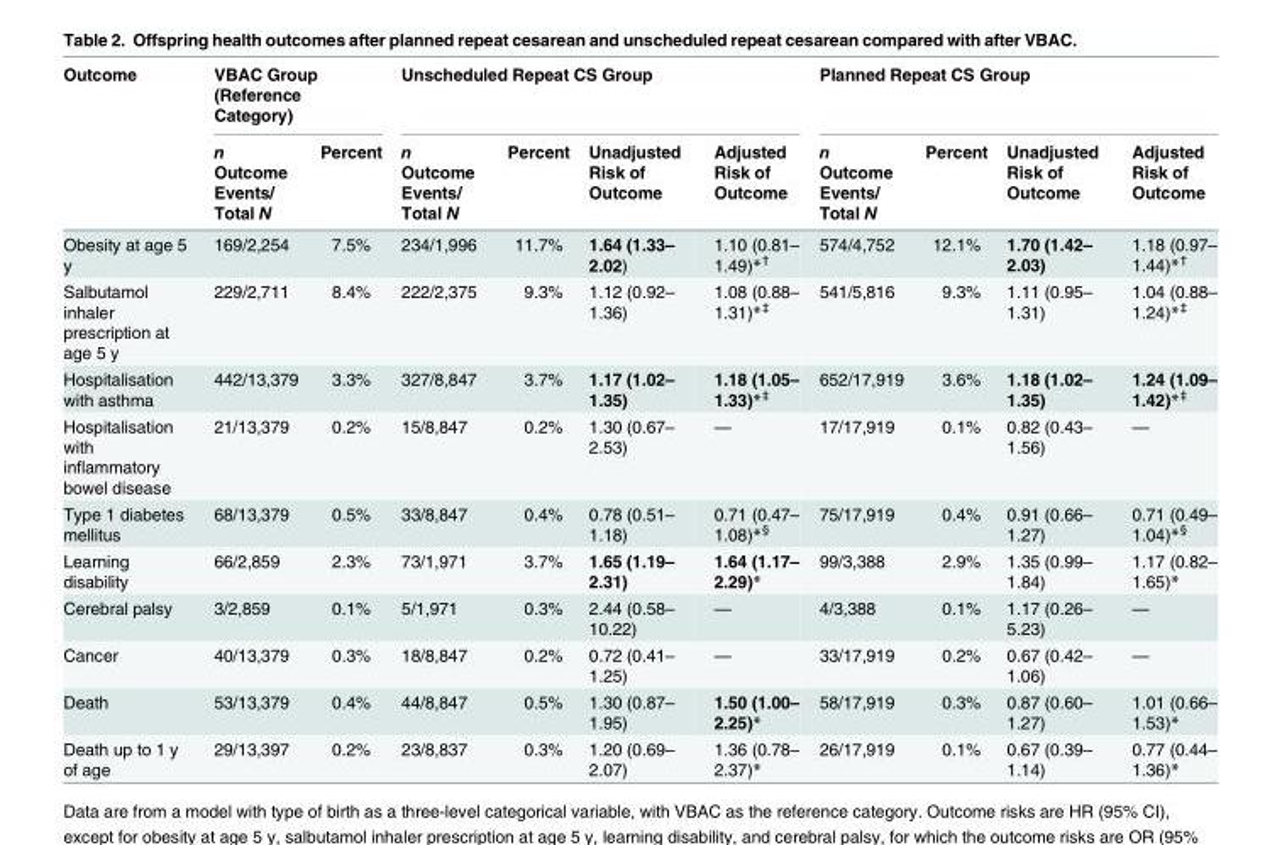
<table><thead><tr><td rowspan="2">Outcome</td><td colspan="2">VBAC Group (Reference Category)</td><td colspan="4">Unscheduled Repeat CS Group</td><td colspan="4">Planned Repeat CS Group</td></tr><tr><td>n Outcome Events/ Total N</td><td>Percent</td><td>n Outcome Events/ Total N</td><td>Percent</td><td>Unadjusted Risk of Outcome</td><td>Adjusted Risk of Outcome</td><td>n Outcome Events/ Total N</td><td>Percent</td><td>Unadjusted Risk of Outcome</td><td>Adjusted Risk of Outcome</td></tr></thead><tbody><tr><td>Obesity at age 5 y</td><td>169/2,254</td><td>7.5%</td><td>234/1,996</td><td>11.7%</td><td>1.64 (1.33– 2.02)</td><td>1.10 (0.81– 1.49)*<sup>†</sup></td><td>574/4,752</td><td>12.1%</td><td>1.70 (1.42– 2.03)</td><td>1.18 (0.97– 1.44)*<sup>†</sup></td></tr><tr><td>Salbutamol inhaler prescription at age 5 y</td><td>229/2,711</td><td>8.4%</td><td>222/2,375</td><td>9.3%</td><td>1.12 (0.92– 1.36)</td><td>1.08 (0.88– 1.31)*<sup>‡</sup></td><td>541/5,816</td><td>9.3%</td><td>1.11 (0.95– 1.31)</td><td>1.04 (0.88– 1.24)*<sup>‡</sup></td></tr><tr><td>Hospitalisation with asthma</td><td>442/13,379</td><td>3.3%</td><td>327/8,847</td><td>3.7%</td><td>1.17 (1.02– 1.35)</td><td>1.18 (1.05– 1.33)*<sup>‡</sup></td><td>652/17,919</td><td>3.6%</td><td>1.18 (1.02– 1.35)</td><td>1.24 (1.09– 1.42)*<sup>‡</sup></td></tr><tr><td>Hospitalisation with inflammatory bowel disease</td><td>21/13,379</td><td>0.2%</td><td>15/8,847</td><td>0.2%</td><td>1.30 (0.67– 2.53)</td><td>—</td><td>17/17,919</td><td>0.1%</td><td>0.82 (0.43– 1.56)</td><td>—</td></tr><tr><td>Type 1 diabetes mellitus</td><td>68/13,379</td><td>0.5%</td><td>33/8,847</td><td>0.4%</td><td>0.78 (0.51– 1.18)</td><td>0.71 (0.47– 1.08)*<sup>§</sup></td><td>75/17,919</td><td>0.4%</td><td>0.91 (0.66– 1.27)</td><td>0.71 (0.49– 1.04)*<sup>§</sup></td></tr><tr><td>Learning disability</td><td>66/2,859</td><td>2.3%</td><td>73/1,971</td><td>3.7%</td><td>1.65 (1.19– 2.31)</td><td>1.64 (1.17– 2.29)*</td><td>99/3,388</td><td>2.9%</td><td>1.35 (0.99– 1.84)</td><td>1.17 (0.82– 1.65)*</td></tr><tr><td>Cerebral palsy</td><td>3/2,859</td><td>0.1%</td><td>5/1,971</td><td>0.3%</td><td>2.44 (0.58– 10.22)</td><td>—</td><td>4/3,388</td><td>0.1%</td><td>1.17 (0.26– 5.23)</td><td>—</td></tr><tr><td>Cancer</td><td>40/13,379</td><td>0.3%</td><td>18/8,847</td><td>0.2%</td><td>0.72 (0.41– 1.25)</td><td>—</td><td>33/17,919</td><td>0.2%</td><td>0.67 (0.42– 1.06)</td><td>—</td></tr><tr><td>Death</td><td>53/13,379</td><td>0.4%</td><td>44/8,847</td><td>0.5%</td><td>1.30 (0.87– 1.95)</td><td>1.50 (1.00– 2.25)*</td><td>58/17,919</td><td>0.3%</td><td>0.87 (0.60– 1.27)</td><td>1.01 (0.66– 1.53)*</td></tr><tr><td>Death up to 1 y of age</td><td>29/13,397</td><td>0.2%</td><td>23/8,837</td><td>0.3%</td><td>1.20 (0.69– 2.07)</td><td>1.36 (0.78– 2.37)*</td><td>26/17,919</td><td>0.1%</td><td>0.67 (0.39– 1.14)</td><td>0.77 (0.44– 1.36)*</td></tr></tbody></table>